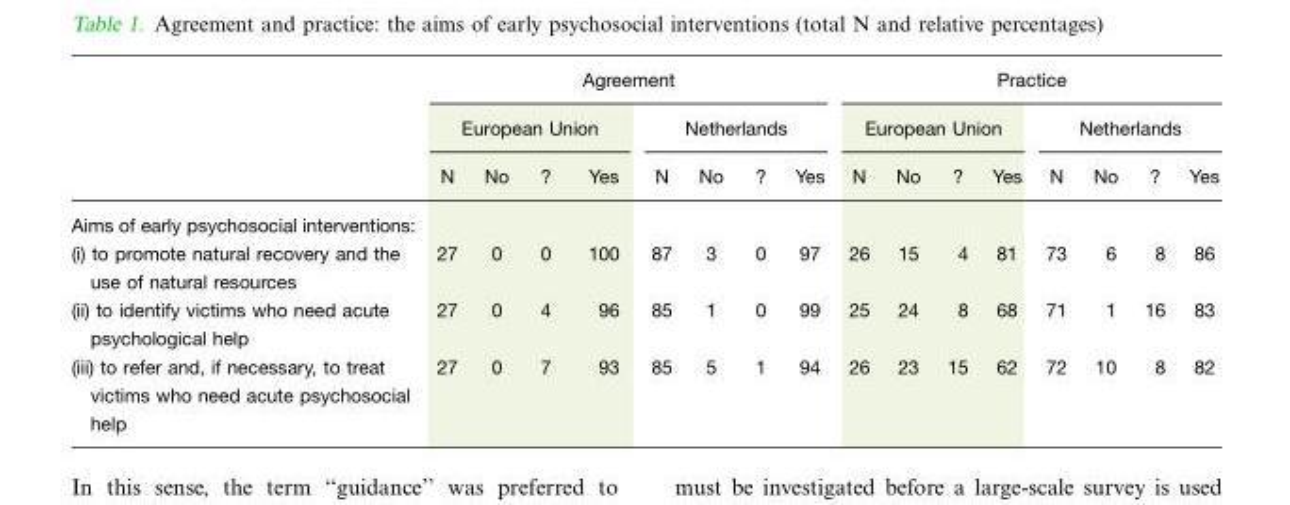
<table><thead><tr><td rowspan="3"></td><td colspan="8">Agreement</td><td colspan="8">Practice</td></tr><tr><td colspan="4">European Union</td><td colspan="4">Netherlands</td><td colspan="4">European Union</td><td colspan="4">Netherlands</td></tr><tr><td>N</td><td>No</td><td>?</td><td>Yes</td><td>N</td><td>No</td><td>?</td><td>Yes</td><td>N</td><td>No</td><td>?</td><td>Yes</td><td>N</td><td>No</td><td>?</td><td>Yes</td></tr></thead><tbody><tr><td colspan="17">Aims of early psychosocial interventions:</td></tr><tr><td>(i) to promote natural recovery and the use of natural resources</td><td>27</td><td>0</td><td>0</td><td>100</td><td>87</td><td>3</td><td>0</td><td>97</td><td>26</td><td>15</td><td>4</td><td>81</td><td>73</td><td>6</td><td>8</td><td>86</td></tr><tr><td>(ii) to identify victims who need acute psychological help</td><td>27</td><td>0</td><td>4</td><td>96</td><td>85</td><td>1</td><td>0</td><td>99</td><td>25</td><td>24</td><td>8</td><td>68</td><td>71</td><td>1</td><td>16</td><td>83</td></tr><tr><td>(iii) to refer and, if necessary, to treat victims who need acute psychosocial help</td><td>27</td><td>0</td><td>7</td><td>93</td><td>85</td><td>5</td><td>1</td><td>94</td><td>26</td><td>23</td><td>15</td><td>62</td><td>72</td><td>10</td><td>8</td><td>82</td></tr></tbody></table>